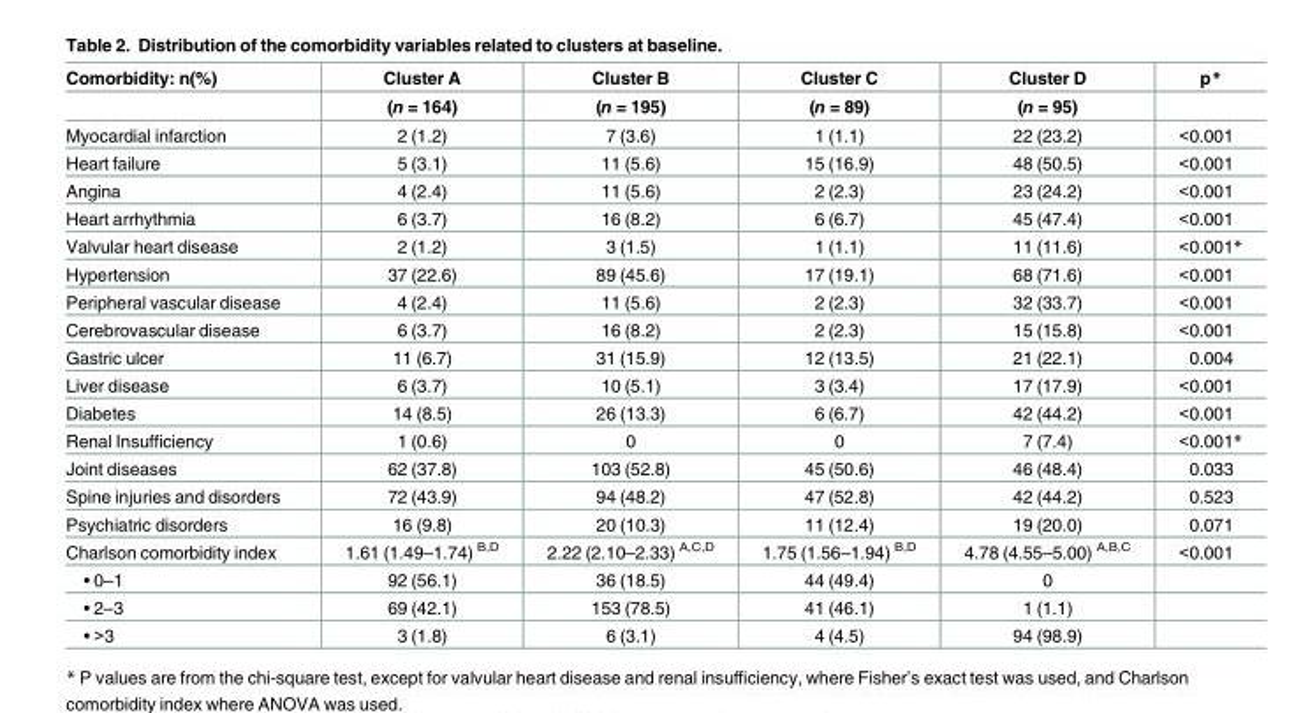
<table><thead><tr><td rowspan="2">Comorbidity: n(%)</td><td rowspan="2">Cluster A (n = 164)</td><td rowspan="2">Cluster B (n = 195)</td><td rowspan="2">Cluster C (n = 89)</td><td rowspan="2">Cluster D (n = 95)</td><td rowspan="2">p*</td></tr><tr></tr></thead><tbody><tr><td>Myocardial infarction</td><td>2 (1.2)</td><td>7 (3.6)</td><td>1 (1.1)</td><td>22 (23.2)</td><td>&lt;0.001</td></tr><tr><td>Heart failure</td><td>5 (3.1)</td><td>11 (5.6)</td><td>15 (16.9)</td><td>48 (50.5)</td><td>&lt;0.001</td></tr><tr><td>Angina</td><td>4 (2.4)</td><td>11 (5.6)</td><td>2 (2.3)</td><td>23 (24.2)</td><td>&lt;0.001</td></tr><tr><td>Heart arrhythmia</td><td>6 (3.7)</td><td>16 (8.2)</td><td>6 (6.7)</td><td>45 (47.4)</td><td>&lt;0.001</td></tr><tr><td>Valvular heart disease</td><td>2 (1.2)</td><td>3 (1.5)</td><td>1 (1.1)</td><td>11 (11.6)</td><td>&lt;0.001*</td></tr><tr><td>Hypertension</td><td>37 (22.6)</td><td>89 (45.6)</td><td>17 (19.1)</td><td>68 (71.6)</td><td>&lt;0.001</td></tr><tr><td>Peripheral vascular disease</td><td>4 (2.4)</td><td>11 (5.6)</td><td>2 (2.3)</td><td>32 (33.7)</td><td>&lt;0.001</td></tr><tr><td>Cerebrovascular disease</td><td>6 (3.7)</td><td>16 (8.2)</td><td>2 (2.3)</td><td>15 (15.8)</td><td>&lt;0.001</td></tr><tr><td>Gastric ulcer</td><td>11 (6.7)</td><td>31 (15.9)</td><td>12 (13.5)</td><td>21 (22.1)</td><td>0.004</td></tr><tr><td>Liver disease</td><td>6 (3.7)</td><td>10 (5.1)</td><td>3 (3.4)</td><td>17 (17.9)</td><td>&lt;0.001</td></tr><tr><td>Diabetes</td><td>14 (8.5)</td><td>26 (13.3)</td><td>6 (6.7)</td><td>42 (44.2)</td><td>&lt;0.001</td></tr><tr><td>Renal Insufficiency</td><td>1 (0.6)</td><td>0</td><td>0</td><td>7 (7.4)</td><td>&lt;0.001*</td></tr><tr><td>Joint diseases</td><td>62 (37.8)</td><td>103 (52.8)</td><td>45 (50.6)</td><td>46 (48.4)</td><td>0.033</td></tr><tr><td>Spine injuries and disorders</td><td>72 (43.9)</td><td>94 (48.2)</td><td>47 (52.8)</td><td>42 (44.2)</td><td>0.523</td></tr><tr><td>Psychiatric disorders</td><td>16 (9.8)</td><td>20 (10.3)</td><td>11 (12.4)</td><td>19 (20.0)</td><td>0.071</td></tr><tr><td>Charlson comorbidity index</td><td>1.61 (1.49–1.74) <sup>B,D</sup></td><td>2.22 (2.10–2.33) <sup>A,C,D</sup></td><td>1.75 (1.56–1.94) <sup>B,D</sup></td><td>4.78 (4.55–5.00) <sup>A,B,C</sup></td><td>&lt;0.001</td></tr><tr><td>• 0–1</td><td>92 (56.1)</td><td>36 (18.5)</td><td>44 (49.4)</td><td>0</td><td></td></tr><tr><td>• 2–3</td><td>69 (42.1)</td><td>153 (78.5)</td><td>41 (46.1)</td><td>1 (1.1)</td><td></td></tr><tr><td>• &gt;3</td><td>3 (1.8)</td><td>6 (3.1)</td><td>4 (4.5)</td><td>94 (98.9)</td><td></td></tr></tbody></table>